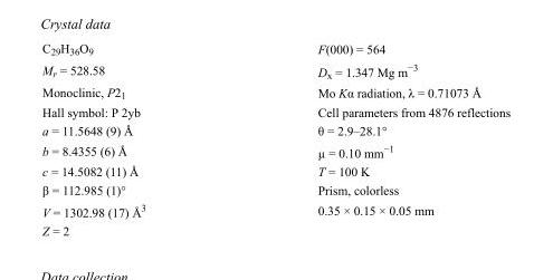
<table><tbody><tr><td>C<sub>29</sub>H<sub>36</sub>O<sub>9</sub></td><td>F(000) = 564</td></tr><tr><td>M<sub>r</sub> = 528.58</td><td>D<sub>x</sub> = 1.347 Mg m<sup>−3</sup></td></tr><tr><td>Monoclinic, P2<sub>1</sub></td><td>Mo Kα radiation, λ = 0.71073 Å</td></tr><tr><td>Hall symbol: P 2yb</td><td>Cell parameters from 4876 reflections</td></tr><tr><td>a = 11.5648 (9) Å</td><td>θ = 2.9–28.1°</td></tr><tr><td>b = 8.4355 (6) Å</td><td>µ = 0.10 mm<sup>−1</sup></td></tr><tr><td>c = 14.5082 (11) Å</td><td>T = 100 K</td></tr><tr><td>β = 112.985 (1)°</td><td>Prism, colorless</td></tr><tr><td>V = 1302.98 (17) Å<sup>3</sup></td><td>0.35 × 0.15 × 0.05 mm</td></tr><tr><td>Z = 2</td><td></td></tr></tbody></table>